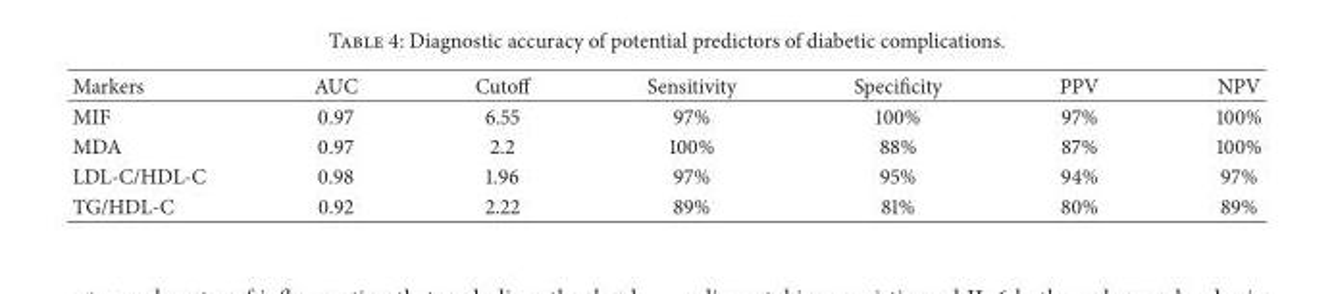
<table><thead><tr><td>Markers</td><td>AUC</td><td>Cutoff</td><td>Sensitivity</td><td>Specificity</td><td>PPV</td><td>NPV</td></tr></thead><tbody><tr><td>MIF</td><td>0.97</td><td>6.55</td><td>97%</td><td>100%</td><td>97%</td><td>100%</td></tr><tr><td>MDA</td><td>0.97</td><td>2.2</td><td>100%</td><td>88%</td><td>87%</td><td>100%</td></tr><tr><td>LDL-C/HDL-C</td><td>0.98</td><td>1.96</td><td>97%</td><td>95%</td><td>94%</td><td>97%</td></tr><tr><td>TG/HDL-C</td><td>0.92</td><td>2.22</td><td>89%</td><td>81%</td><td>80%</td><td>89%</td></tr></tbody></table>